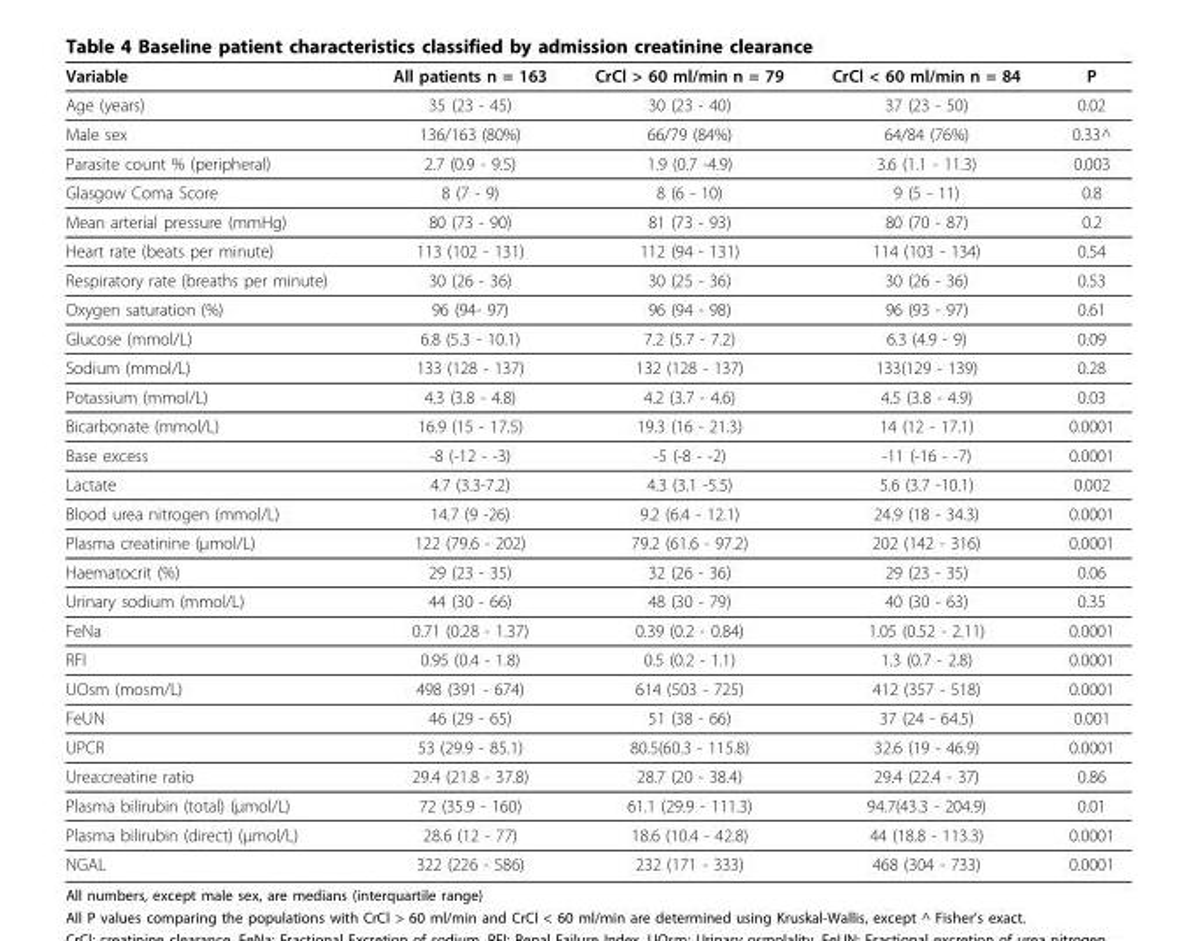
<table><thead><tr><td>Variable</td><td>All patients n = 163</td><td>CrCl &gt; 60 ml/min n = 79</td><td>CrCl &lt; 60 ml/min n = 84</td><td>P</td></tr></thead><tbody><tr><td>Age (years)</td><td>35 (23 - 45)</td><td>30 (23 - 40)</td><td>37 (23 - 50)</td><td>0.02</td></tr><tr><td>Male sex</td><td>136/163 (80%)</td><td>66/79 (84%)</td><td>64/84 (76%)</td><td>0.33^</td></tr><tr><td>Parasite count % (peripheral)</td><td>2.7 (0.9 - 9.5)</td><td>1.9 (0.7 -4.9)</td><td>3.6 (1.1 - 11.3)</td><td>0.003</td></tr><tr><td>Glasgow Coma Score</td><td>8 (7 - 9)</td><td>8 (6 - 10)</td><td>9 (5 - 11)</td><td>0.8</td></tr><tr><td>Mean arterial pressure (mmHg)</td><td>80 (73 - 90)</td><td>81 (73 - 93)</td><td>80 (70 - 87)</td><td>0.2</td></tr><tr><td>Heart rate (beats per minute)</td><td>113 (102 - 131)</td><td>112 (94 - 131)</td><td>114 (103 - 134)</td><td>0.54</td></tr><tr><td>Respiratory rate (breaths per minute)</td><td>30 (26 - 36)</td><td>30 (25 - 36)</td><td>30 (26 - 36)</td><td>0.53</td></tr><tr><td>Oxygen saturation (%)</td><td>96 (94- 97)</td><td>96 (94 - 98)</td><td>96 (93 - 97)</td><td>0.61</td></tr><tr><td>Glucose (mmol/L)</td><td>6.8 (5.3 - 10.1)</td><td>7.2 (5.7 - 7.2)</td><td>6.3 (4.9 - 9)</td><td>0.09</td></tr><tr><td>Sodium (mmol/L)</td><td>133 (128 - 137)</td><td>132 (128 - 137)</td><td>133(129 - 139)</td><td>0.28</td></tr><tr><td>Potassium (mmol/L)</td><td>4.3 (3.8 - 4.8)</td><td>4.2 (3.7 - 4.6)</td><td>4.5 (3.8 - 4.9)</td><td>0.03</td></tr><tr><td>Bicarbonate (mmol/L)</td><td>16.9 (15 - 17.5)</td><td>19.3 (16 - 21.3)</td><td>14 (12 - 17.1)</td><td>0.0001</td></tr><tr><td>Base excess</td><td>-8 (-12 - -3)</td><td>-5 (-8 - -2)</td><td>-11 (-16 - -7)</td><td>0.0001</td></tr><tr><td>Lactate</td><td>4.7 (3.3-7.2)</td><td>4.3 (3.1 -5.5)</td><td>5.6 (3.7 -10.1)</td><td>0.002</td></tr><tr><td>Blood urea nitrogen (mmol/L)</td><td>14.7 (9 -26)</td><td>9.2 (6.4 - 12.1)</td><td>24.9 (18 - 34.3)</td><td>0.0001</td></tr><tr><td>Plasma creatinine (μmol/L)</td><td>122 (79.6 - 202)</td><td>79.2 (61.6 - 97.2)</td><td>202 (142 - 316)</td><td>0.0001</td></tr><tr><td>Haematocrit (%)</td><td>29 (23 - 35)</td><td>32 (26 - 36)</td><td>29 (23 - 35)</td><td>0.06</td></tr><tr><td>Urinary sodium (mmol/L)</td><td>44 (30 - 66)</td><td>48 (30 - 79)</td><td>40 (30 - 63)</td><td>0.35</td></tr><tr><td>FeNa</td><td>0.71 (0.28 - 1.37)</td><td>0.39 (0.2 - 0.84)</td><td>1.05 (0.52 - 2.11)</td><td>0.0001</td></tr><tr><td>RFI</td><td>0.95 (0.4 - 1.8)</td><td>0.5 (0.2 - 1.1)</td><td>1.3 (0.7 - 2.8)</td><td>0.0001</td></tr><tr><td>UOsm (mosm/L)</td><td>498 (391 - 674)</td><td>614 (503 - 725)</td><td>412 (357 - 518)</td><td>0.0001</td></tr><tr><td>FeUN</td><td>46 (29 - 65)</td><td>51 (38 - 66)</td><td>37 (24 - 64.5)</td><td>0.001</td></tr><tr><td>UPCR</td><td>53 (29.9 - 85.1)</td><td>80.5(60.3 - 115.8)</td><td>32.6 (19 - 46.9)</td><td>0.0001</td></tr><tr><td>Urea:creatine ratio</td><td>29.4 (21.8 - 37.8)</td><td>28.7 (20 - 38.4)</td><td>29.4 (22.4 - 37)</td><td>0.86</td></tr><tr><td>Plasma bilirubin (total) (μmol/L)</td><td>72 (35.9 - 160)</td><td>61.1 (29.9 - 111.3)</td><td>94.7(43.3 - 204.9)</td><td>0.01</td></tr><tr><td>Plasma bilirubin (direct) (μmol/L)</td><td>28.6 (12 - 77)</td><td>18.6 (10.4 - 42.8)</td><td>44 (18.8 - 113.3)</td><td>0.0001</td></tr><tr><td>NGAL</td><td>322 (226 - 586)</td><td>232 (171 - 333)</td><td>468 (304 - 733)</td><td>0.0001</td></tr></tbody></table>